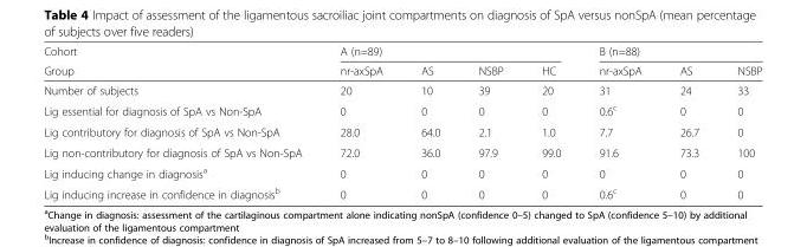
<table><thead><tr><td rowspan="2">Cohort Group</td><td colspan="4">A (n=89)</td><td colspan="3">B (n=88)</td></tr><tr><td>nr-axSpA</td><td>AS</td><td>NSBP</td><td>HC</td><td>nr-axSpA</td><td>AS</td><td>NSBP</td></tr></thead><tbody><tr><td>Number of subjects</td><td>20</td><td>10</td><td>39</td><td>20</td><td>31</td><td>24</td><td>33</td></tr><tr><td>Lig essential for diagnosis of SpA vs Non-SpA</td><td>0</td><td>0</td><td>0</td><td>0</td><td>0.6<sup>c</sup></td><td>0</td><td>0</td></tr><tr><td>Lig contributory for diagnosis of SpA vs Non-SpA</td><td>28.0</td><td>64.0</td><td>2.1</td><td>1.0</td><td>7.7</td><td>26.7</td><td>0</td></tr><tr><td>Lig non-contributory for diagnosis of SpA vs Non-SpA</td><td>72.0</td><td>36.0</td><td>97.9</td><td>99.0</td><td>91.6</td><td>73.3</td><td>100</td></tr><tr><td>Lig inducing change in diagnosis<sup>a</sup></td><td>0</td><td>0</td><td>0</td><td>0</td><td>0</td><td>0</td><td>0</td></tr><tr><td>Lig inducing increase in confidence in diagnosis<sup>b</sup></td><td>0</td><td>0</td><td>0</td><td>0</td><td>0.6<sup>c</sup></td><td>0</td><td>0</td></tr></tbody></table>